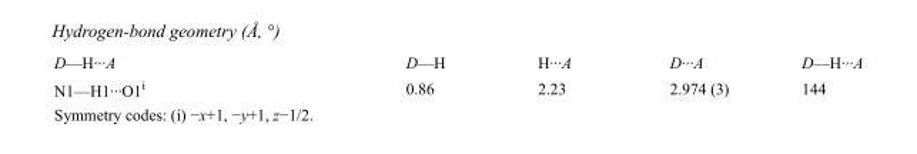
<table><tbody><tr><td>D—H···A</td><td>D—H</td><td>H···A</td><td>D···A</td><td>D—H···A</td></tr><tr><td>N1—H1···O1<sup>i</sup></td><td>0.86</td><td>2.23</td><td>2.974 (3)</td><td>144</td></tr></tbody></table>